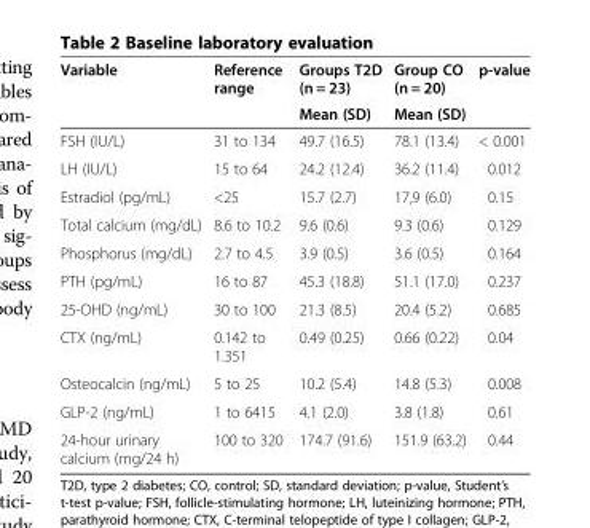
<table><thead><tr><td rowspan="2">Variable</td><td rowspan="2">Reference range</td><td rowspan="2">Groups T2D (n = 23) Mean (SD)</td><td rowspan="2">Group CO (n = 20) Mean (SD)</td><td rowspan="2">p-value</td></tr><tr></tr></thead><tbody><tr><td>FSH (IU/L)</td><td>31 to 134</td><td>49.7 (16.5)</td><td>78.1 (13.4)</td><td>&lt; 0.001</td></tr><tr><td>LH (IU/L)</td><td>15 to 64</td><td>24.2 (12.4)</td><td>36.2 (11.4)</td><td>0.012</td></tr><tr><td>Estradiol (pg/mL)</td><td>&lt;25</td><td>15.7 (2.7)</td><td>17,9 (6.0)</td><td>0.15</td></tr><tr><td>Total calcium (mg/dL)</td><td>8.6 to 10.2</td><td>9.6 (0.6)</td><td>9.3 (0.6)</td><td>0.129</td></tr><tr><td>Phosphorus (mg/dL)</td><td>2.7 to 4.5</td><td>3.9 (0.5)</td><td>3.6 (0.5)</td><td>0.164</td></tr><tr><td>PTH (pg/mL)</td><td>16 to 87</td><td>45.3 (18.8)</td><td>51.1 (17.0)</td><td>0.237</td></tr><tr><td>25-OHD (ng/mL)</td><td>30 to 100</td><td>21.3 (8.5)</td><td>20.4 (5.2)</td><td>0.685</td></tr><tr><td>CTX (ng/mL)</td><td>0.142 to 1.351</td><td>0.49 (0.25)</td><td>0.66 (0.22)</td><td>0.04</td></tr><tr><td>Osteocalcin (ng/mL)</td><td>5 to 25</td><td>10.2 (5.4)</td><td>14.8 (5.3)</td><td>0.008</td></tr><tr><td>GLP-2 (ng/mL)</td><td>1 to 6415</td><td>4.1 (2.0)</td><td>3.8 (1.8)</td><td>0.61</td></tr><tr><td>24-hour urinary calcium (mg/24 h)</td><td>100 to 320</td><td>174.7 (91.6)</td><td>151.9 (63.2)</td><td>0.44</td></tr></tbody></table>